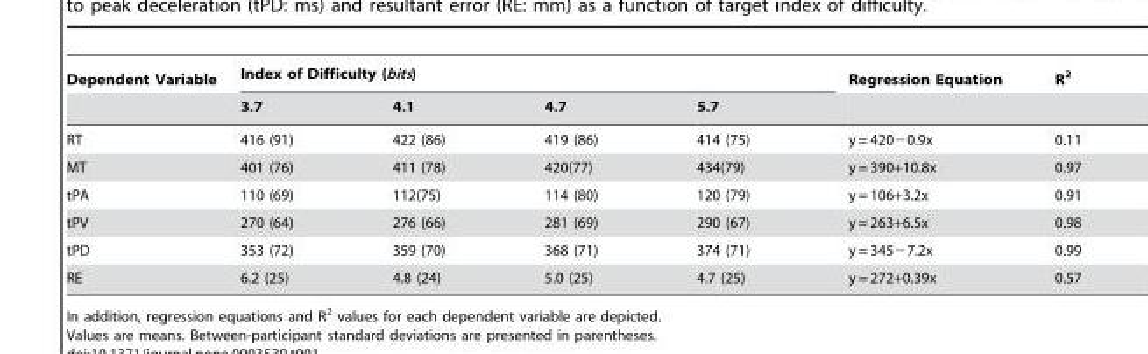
<table><thead><tr><td rowspan="2">Dependent Variable</td><td colspan="4">Index of Difficulty (bits)</td><td rowspan="2">Regression Equation</td><td rowspan="2">R<sup>2</sup></td></tr><tr><td>3.7</td><td>4.1</td><td>4.7</td><td>5.7</td></tr></thead><tbody><tr><td>RT</td><td>416 (91)</td><td>422 (86)</td><td>419 (86)</td><td>414 (75)</td><td>y = 420−0.9x</td><td>0.11</td></tr><tr><td>MT</td><td>401 (76)</td><td>411 (78)</td><td>420(77)</td><td>434(79)</td><td>y = 390+10.8x</td><td>0.97</td></tr><tr><td>tPA</td><td>110 (69)</td><td>112(75)</td><td>114 (80)</td><td>120 (79)</td><td>y = 106+3.2x</td><td>0.91</td></tr><tr><td>tPV</td><td>270 (64)</td><td>276 (66)</td><td>281 (69)</td><td>290 (67)</td><td>y = 263+6.5x</td><td>0.98</td></tr><tr><td>tPD</td><td>353 (72)</td><td>359 (70)</td><td>368 (71)</td><td>374 (71)</td><td>y = 345−7.2x</td><td>0.99</td></tr><tr><td>RE</td><td>6.2 (25)</td><td>4.8 (24)</td><td>5.0 (25)</td><td>4.7 (25)</td><td>y = 272+0.39x</td><td>0.57</td></tr></tbody></table>